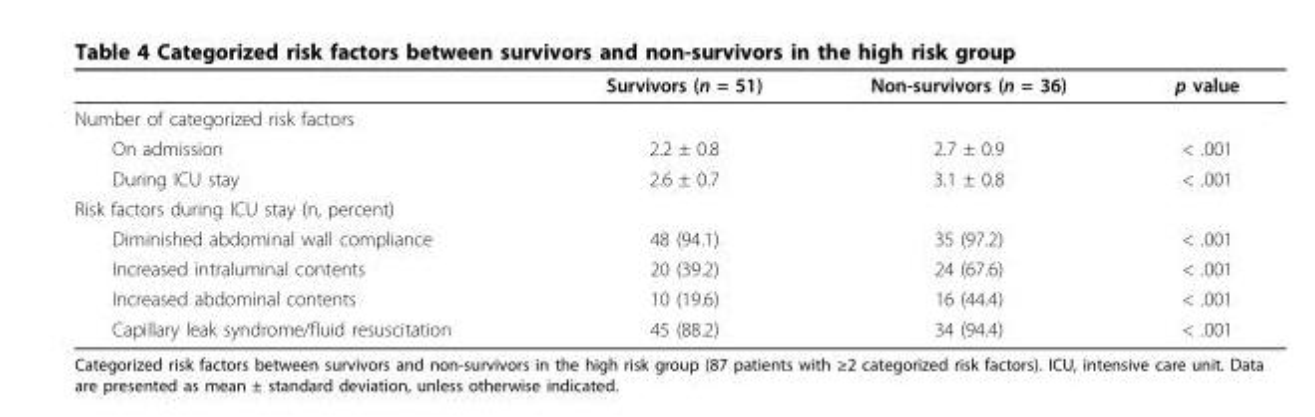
<table><thead><tr><td></td><td>Survivors (n = 51)</td><td>Non-survivors (n = 36)</td><td>p value</td></tr></thead><tbody><tr><td colspan="4">Number of categorized risk factors</td></tr><tr><td>On admission</td><td>2.2 ± 0.8</td><td>2.7 ± 0.9</td><td>&lt; .001</td></tr><tr><td>During ICU stay</td><td>2.6 ± 0.7</td><td>3.1 ± 0.8</td><td>&lt; .001</td></tr><tr><td colspan="4">Risk factors during ICU stay (n, percent)</td></tr><tr><td>Diminished abdominal wall compliance</td><td>48 (94.1)</td><td>35 (97.2)</td><td>&lt; .001</td></tr><tr><td>Increased intraluminal contents</td><td>20 (39.2)</td><td>24 (67.6)</td><td>&lt; .001</td></tr><tr><td>Increased abdominal contents</td><td>10 (19.6)</td><td>16 (44.4)</td><td>&lt; .001</td></tr><tr><td>Capillary leak syndrome/fluid resuscitation</td><td>45 (88.2)</td><td>34 (94.4)</td><td>&lt; .001</td></tr></tbody></table>